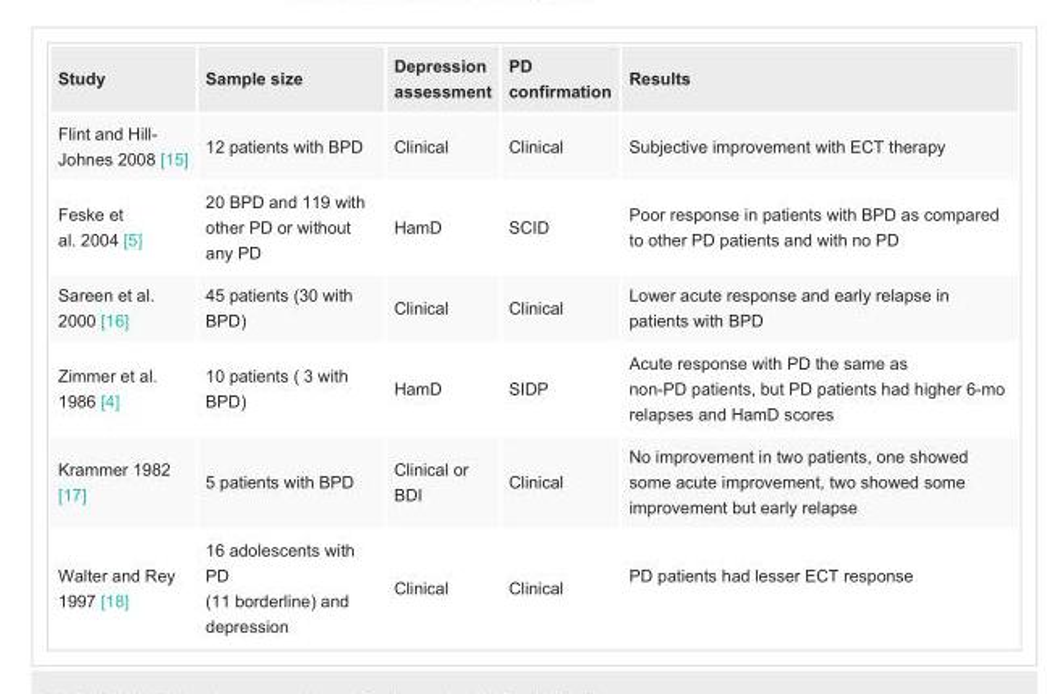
<table><tbody><tr><td>Study</td><td>Sample size</td><td>Depression assessment</td><td>PD confirmation</td><td>Results</td></tr><tr><td>Flint and Hill- Johnes 2008 [15]</td><td>12 patients with BPD</td><td>Clinical</td><td>Clinical</td><td>Subjective improvement with ECT therapy</td></tr><tr><td>Feske et al. 2004 [5]</td><td>20 BPD and 119 with other PD or without any PD</td><td>HamD</td><td>SCID</td><td>Poor response in patients with BPD as compared to other PD patients and with no PD</td></tr><tr><td>Sareen et al. 2000 [16]</td><td>45 patients (30 with BPD)</td><td>Clinical</td><td>Clinical</td><td>Lower acute response and early relapse in patients with BPD</td></tr><tr><td>Zimmer et al. 1986 [4]</td><td>10 patients ( 3 with BPD)</td><td>HamD</td><td>SIDP</td><td>Acute response with PD the same as non-PD patients, but PD patients had higher 6-mo relapses and HamD scores</td></tr><tr><td>Krammer 1982 [17]</td><td>5 patients with BPD</td><td>Clinical or BDI</td><td>Clinical</td><td>No improvement in two patients, one showed some acute improvement, two showed some improvement but early relapse</td></tr><tr><td>Walter and Rey 1997 [18]</td><td>16 adolescents with PD (11 borderline) and depression</td><td>Clinical</td><td>Clinical</td><td>PD patients had lesser ECT response</td></tr></tbody></table>